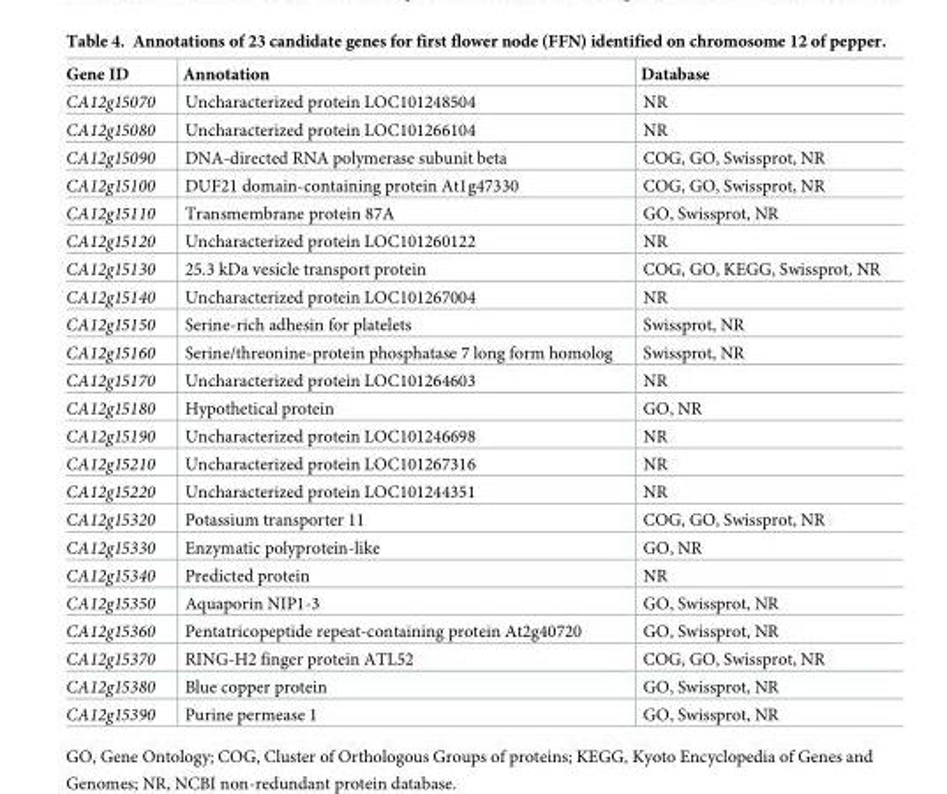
<table><thead><tr><td>Gene ID</td><td>Annotation</td><td>Database</td></tr></thead><tbody><tr><td>CA12g15070</td><td>Uncharacterized protein LOC101248504</td><td>NR</td></tr><tr><td>CA12g15080</td><td>Uncharacterized protein LOC101266104</td><td>NR</td></tr><tr><td>CA12g15090</td><td>DNA-directed RNA polymerase subunit beta</td><td>COG, GO, Swissprot, NR</td></tr><tr><td>CA12g15100</td><td>DUF21 domain-containing protein At1g47330</td><td>COG, GO, Swissprot, NR</td></tr><tr><td>CA12g15110</td><td>Transmembrane protein 87A</td><td>GO, Swissprot, NR</td></tr><tr><td>CA12g15120</td><td>Uncharacterized protein LOC101260122</td><td>NR</td></tr><tr><td>CA12g15130</td><td>25.3 kDa vesicle transport protein</td><td>COG, GO, KEGG, Swissprot, NR</td></tr><tr><td>CA12g15140</td><td>Uncharacterized protein LOC101267004</td><td>NR</td></tr><tr><td>CA12g15150</td><td>Serine-rich adhesin for platelets</td><td>Swissprot, NR</td></tr><tr><td>CA12g15160</td><td>Serine/threonine-protein phosphatase 7 long form homolog</td><td>Swissprot, NR</td></tr><tr><td>CA12g15170</td><td>Uncharacterized protein LOC101264603</td><td>NR</td></tr><tr><td>CA12g15180</td><td>Hypothetical protein</td><td>GO, NR</td></tr><tr><td>CA12g15190</td><td>Uncharacterized protein LOC101246698</td><td>NR</td></tr><tr><td>CA12g15210</td><td>Uncharacterized protein LOC101267316</td><td>NR</td></tr><tr><td>CA12g15220</td><td>Uncharacterized protein LOC101244351</td><td>NR</td></tr><tr><td>CA12g15320</td><td>Potassium transporter 11</td><td>COG, GO, Swissprot, NR</td></tr><tr><td>CA12g15330</td><td>Enzymatic polyprotein-like</td><td>GO, NR</td></tr><tr><td>CA12g15340</td><td>Predicted protein</td><td>NR</td></tr><tr><td>CA12g15350</td><td>Aquaporin NIP1-3</td><td>GO, Swissprot, NR</td></tr><tr><td>CA12g15360</td><td>Pentatricopeptide repeat-containing protein At2g40720</td><td>GO, Swissprot, NR</td></tr><tr><td>CA12g15370</td><td>RING-H2 finger protein ATL52</td><td>COG, GO, Swissprot, NR</td></tr><tr><td>CA12g15380</td><td>Blue copper protein</td><td>GO, Swissprot, NR</td></tr><tr><td>CA12g15390</td><td>Purine permease 1</td><td>GO, Swissprot, NR</td></tr></tbody></table>